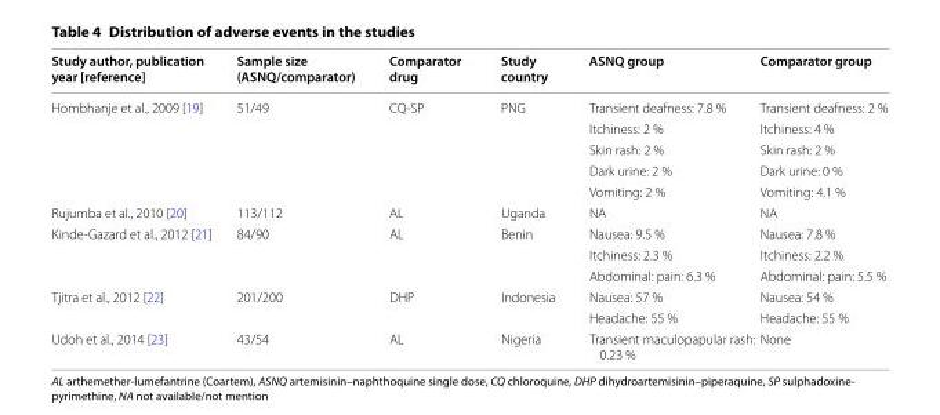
<table><thead><tr><td>Study author, publication year [reference]</td><td>Sample size (ASNQ/comparator)</td><td>Comparator drug</td><td>Study country</td><td>ASNQ group</td><td>Comparator group</td></tr></thead><tbody><tr><td rowspan="5">Hombhanje et al., 2009 [19]</td><td rowspan="5">51/49</td><td rowspan="5">CQ-SP</td><td rowspan="5">PNG</td><td>Transient deafness: 7.8 %</td><td>Transient deafness: 2 %</td></tr><tr><td>Itchiness: 2 %</td><td>Itchiness: 4 %</td></tr><tr><td>Skin rash: 2 %</td><td>Skin rash: 2 %</td></tr><tr><td>Dark urine: 2 %</td><td>Dark urine: 0 %</td></tr><tr><td>Vomiting: 2 %</td><td>Vomiting: 4.1 %</td></tr><tr><td>Rujumba et al., 2010 [20]</td><td>113/112</td><td>AL</td><td>Uganda</td><td>NA</td><td>NA</td></tr><tr><td rowspan="3">Kinde-Gazard et al., 2012 [21]</td><td rowspan="3">84/90</td><td rowspan="3">AL</td><td rowspan="3">Benin</td><td>Nausea: 9.5 %</td><td>Nausea: 7.8 %</td></tr><tr><td>Itchiness: 2.3 %</td><td>Itchiness: 2.2 %</td></tr><tr><td>Abdominal: pain: 6.3 %</td><td>Abdominal: pain: 5.5 %</td></tr><tr><td rowspan="2">Tjitra et al., 2012 [22]</td><td rowspan="2">201/200</td><td rowspan="2">DHP</td><td rowspan="2">Indonesia</td><td>Nausea: 57 %</td><td>Nausea: 54 %</td></tr><tr><td>Headache: 55 %</td><td>Headache: 55 %</td></tr><tr><td>Udoh et al., 2014 [23]</td><td>43/54</td><td>AL</td><td>Nigeria</td><td>Transient maculopapular rash: 0.23 %</td><td>None</td></tr></tbody></table>